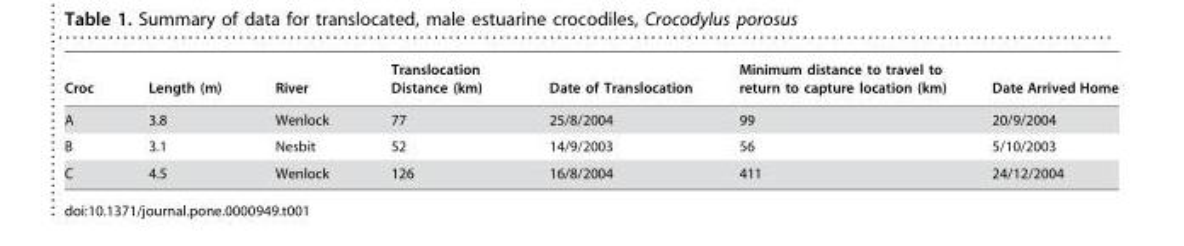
<table><thead><tr><td>Croc</td><td>Length (m)</td><td>River</td><td>Translocation Distance (km)</td><td>Date of Translocation</td><td>Minimum distance to travel to return to capture location (km)</td><td>Date Arrived Home</td></tr></thead><tbody><tr><td>A</td><td>3.8</td><td>Wenlock</td><td>77</td><td>25/8/2004</td><td>99</td><td>20/9/2004</td></tr><tr><td>B</td><td>3.1</td><td>Nesbit</td><td>52</td><td>14/9/2003</td><td>56</td><td>5/10/2003</td></tr><tr><td>C</td><td>4.5</td><td>Wenlock</td><td>126</td><td>16/8/2004</td><td>411</td><td>24/12/2004</td></tr></tbody></table>